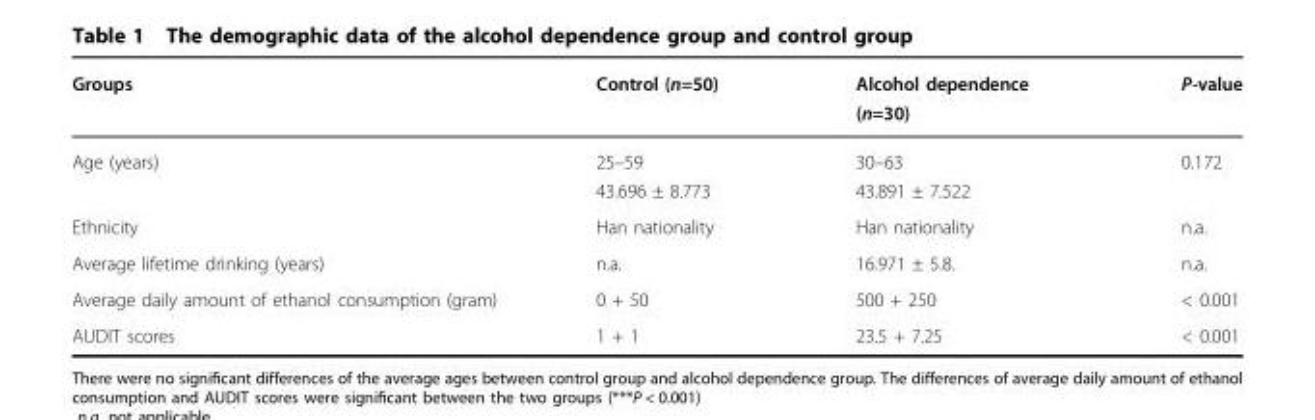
<table><thead><tr><td>Groups</td><td>Control (n=50)</td><td>Alcohol dependence (n=30)</td><td>P-value</td></tr></thead><tbody><tr><td>Age (years)</td><td>25–59 43.696 ± 8.773</td><td>30–63 43.891 ± 7.522</td><td>0.172</td></tr><tr><td>Ethnicity</td><td>Han nationality</td><td>Han nationality</td><td>n.a.</td></tr><tr><td>Average lifetime drinking (years)</td><td>n.a.</td><td>16.971 ± 5.8.</td><td>n.a.</td></tr><tr><td>Average daily amount of ethanol consumption (gram)</td><td>0 + 50</td><td>500 + 250</td><td>&lt; 0.001</td></tr><tr><td>AUDIT scores</td><td>1 + 1</td><td>23.5 + 7.25</td><td>&lt; 0.001</td></tr></tbody></table>